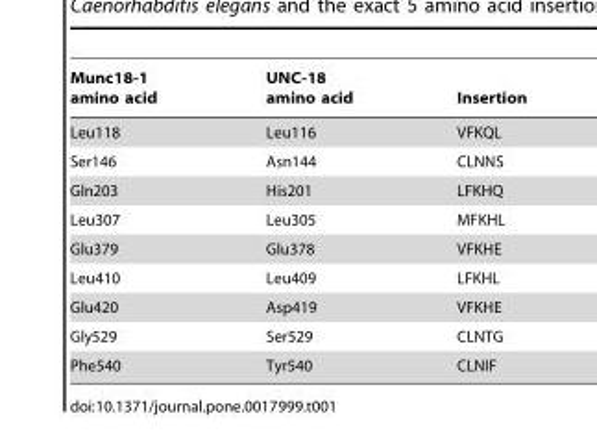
<table><thead><tr><td>Munc18-1 amino acid</td><td>UNC-18 amino acid</td><td>Insertion</td></tr></thead><tbody><tr><td>Leu118</td><td>Leu116</td><td>VFKQL</td></tr><tr><td>Ser146</td><td>Asn144</td><td>CLNNS</td></tr><tr><td>Gln203</td><td>His201</td><td>LFKHQ</td></tr><tr><td>Leu307</td><td>Leu305</td><td>MFKHL</td></tr><tr><td>Glu379</td><td>Glu378</td><td>VFKHE</td></tr><tr><td>Leu410</td><td>Leu409</td><td>LFKHL</td></tr><tr><td>Glu420</td><td>Asp419</td><td>VFKHE</td></tr><tr><td>Gly529</td><td>Ser529</td><td>CLNTG</td></tr><tr><td>Phe540</td><td>Tyr540</td><td>CLNIF</td></tr></tbody></table>